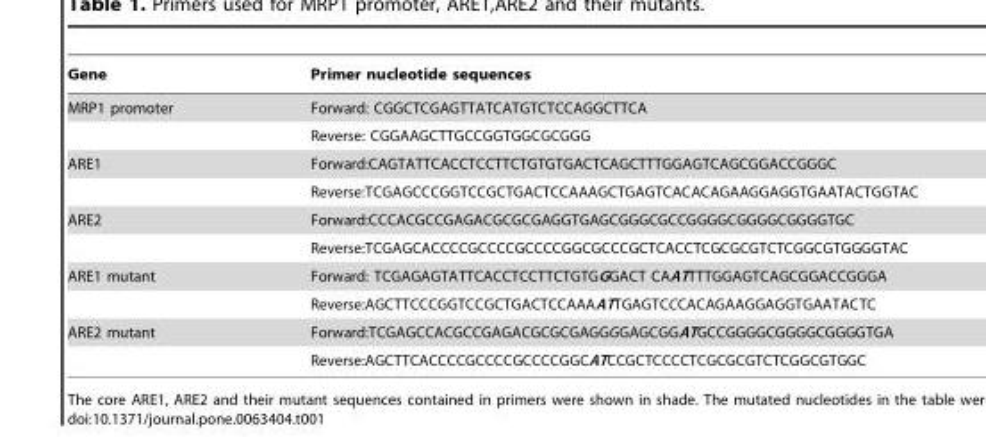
<table><thead><tr><td>Gene</td><td>Primer nucleotide sequences</td></tr></thead><tbody><tr><td rowspan="2">MRP1 promoter</td><td>Forward: CGGCTCGAGTTATCATGTCTCCAGGCTTCA</td></tr><tr><td>Reverse: CGGAAGCTTGCCGGTGGCGCGGG</td></tr><tr><td rowspan="2">ARE1</td><td>Forward:CAGTATTCACCTCCTTCTGTGTGACTCAGCTTTGGAGTCAGCGGACCGGGC</td></tr><tr><td>Reverse:TCGAGCCCGGTCCGCTGACTCCAAAGCTGAGTCACACAGAAGGAGGTGAATACTGGTAC</td></tr><tr><td rowspan="2">ARE2</td><td>Forward:CCCACGCCGAGACGCGCGAGGTGAGCGGGCGCCGGGGCGGGGCGGGGTGC</td></tr><tr><td>Reverse:TCGAGCACCCCGCCCCGCCCCGGCGCCCGCTCACCTCGCGCGTCTCGGCGTGGGGTAC</td></tr><tr><td rowspan="2">ARE1 mutant</td><td>Forward: TCGAGAGTATTCACCTCCTTCTGTGGGACT CAATTTTGGAGTCAGCGGACCGGGA</td></tr><tr><td>Reverse:AGCTTCCCGGTCCGCTGACTCCAAAATTGAGTCCCACAGAAGGAGGTGAATACTC</td></tr><tr><td rowspan="2">ARE2 mutant</td><td>Forward:TCGAGCCACGCCGAGACGCGCGAGGGGAGCGGATGCCGGGGCGGGGCGGGGTGA</td></tr><tr><td>Reverse:AGCTTCACCCCGCCCCGCCCCGGCATCCGCTCCCCTCGCGCGTCTCGGCGTGGC</td></tr></tbody></table>